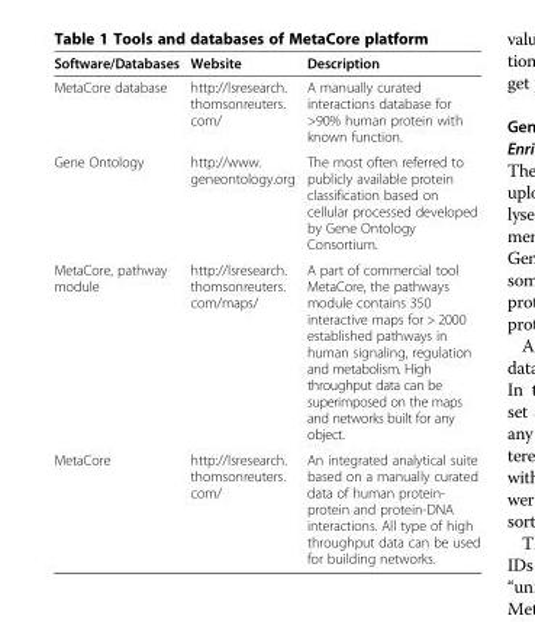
<table><thead><tr><td>Software/Databases</td><td>Website</td><td>Description</td></tr></thead><tbody><tr><td>MetaCore database</td><td>http://lsresearch. thomsonreuters. com/</td><td>A manually curated interactions database for &gt;90% human protein with known function.</td></tr><tr><td>Gene Ontology</td><td>http://www. geneontology.org</td><td>The most often referred to publicly available protein classification based on cellular processed developed by Gene Ontology Consortium.</td></tr><tr><td>MetaCore, pathway module</td><td>http://lsresearch. thomsonreuters. com/maps/</td><td>A part of commercial tool MetaCore, the pathways module contains 350 interactive maps for &gt; 2000 established pathways in human signaling, regulation and metabolism. High throughput data can be superimposed on the maps and networks built for any object.</td></tr><tr><td>MetaCore</td><td>http://lsresearch. thomsonreuters. com/</td><td>An integrated analytical suite based on a manually curated data of human protein- protein and protein-DNA interactions. All type of high throughput data can be used for building networks.</td></tr></tbody></table>